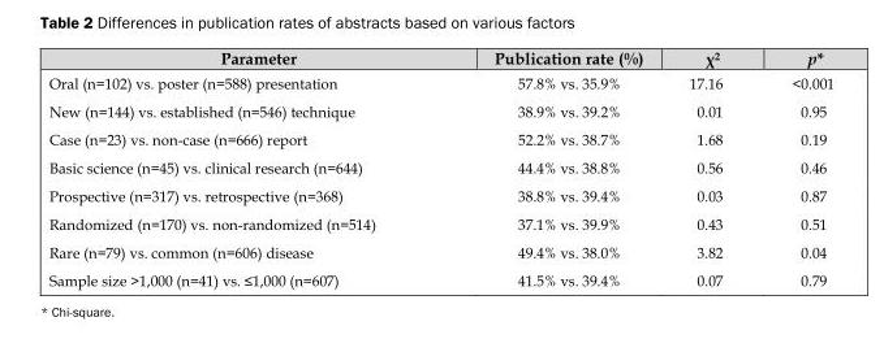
<table><thead><tr><td>Parameter</td><td>Publication rate (%)</td><td>χ<sup>2</sup></td><td>p*</td></tr></thead><tbody><tr><td>Oral (n=102) vs. poster (n=588) presentation</td><td>57.8% vs. 35.9%</td><td>17.16</td><td>&lt;0.001</td></tr><tr><td>New (n=144) vs. established (n=546) technique</td><td>38.9% vs. 39.2%</td><td>0.01</td><td>0.95</td></tr><tr><td>Case (n=23) vs. non-case (n=666) report</td><td>52.2% vs. 38.7%</td><td>1.68</td><td>0.19</td></tr><tr><td>Basic science (n=45) vs. clinical research (n=644)</td><td>44.4% vs. 38.8%</td><td>0.56</td><td>0.46</td></tr><tr><td>Prospective (n=317) vs. retrospective (n=368)</td><td>38.8% vs. 39.4%</td><td>0.03</td><td>0.87</td></tr><tr><td>Randomized (n=170) vs. non-randomized (n=514)</td><td>37.1% vs. 39.9%</td><td>0.43</td><td>0.51</td></tr><tr><td>Rare (n=79) vs. common (n=606) disease</td><td>49.4% vs. 38.0%</td><td>3.82</td><td>0.04</td></tr><tr><td>Sample size &gt;1,000 (n=41) vs. ≤1,000 (n=607)</td><td>41.5% vs. 39.4%</td><td>0.07</td><td>0.79</td></tr></tbody></table>